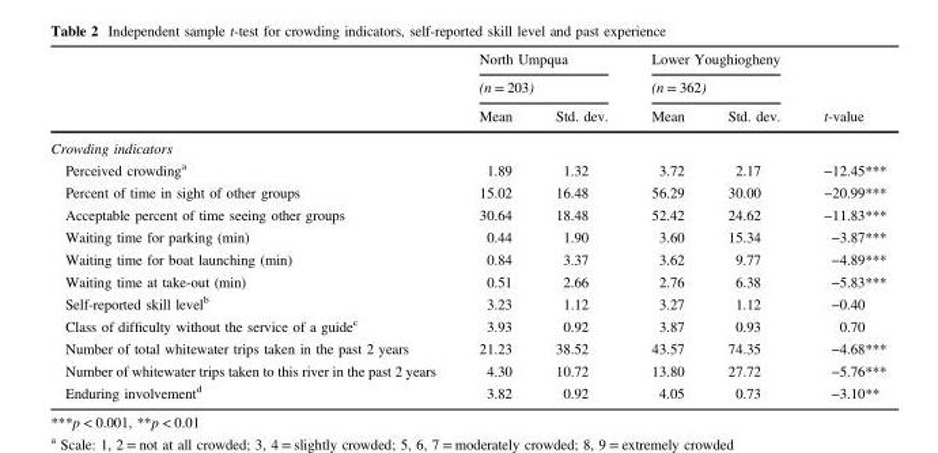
<table><thead><tr><td rowspan="3"></td><td rowspan="2" colspan="2">North Umpqua (n = 203)</td><td rowspan="2" colspan="2">Lower Youghiogheny (n = 362)</td><td rowspan="3">t-value</td></tr><tr></tr><tr><td>Mean</td><td>Std. dev.</td><td>Mean</td><td>Std. dev.</td></tr></thead><tbody><tr><td colspan="6">Crowding indicators</td></tr><tr><td>Perceived crowding<sup>a</sup></td><td>1.89</td><td>1.32</td><td>3.72</td><td>2.17</td><td>−12.45***</td></tr><tr><td>Percent of time in sight of other groups</td><td>15.02</td><td>16.48</td><td>56.29</td><td>30.00</td><td>−20.99***</td></tr><tr><td>Acceptable percent of time seeing other groups</td><td>30.64</td><td>18.48</td><td>52.42</td><td>24.62</td><td>−11.83***</td></tr><tr><td>Waiting time for parking (min)</td><td>0.44</td><td>1.90</td><td>3.60</td><td>15.34</td><td>−3.87***</td></tr><tr><td>Waiting time for boat launching (min)</td><td>0.84</td><td>3.37</td><td>3.62</td><td>9.77</td><td>−4.89***</td></tr><tr><td>Waiting time at take-out (min)</td><td>0.51</td><td>2.66</td><td>2.76</td><td>6.38</td><td>−5.83***</td></tr><tr><td>Self-reported skill level<sup>b</sup></td><td>3.23</td><td>1.12</td><td>3.27</td><td>1.12</td><td>−0.40</td></tr><tr><td>Class of difficulty without the service of a guide<sup>c</sup></td><td>3.93</td><td>0.92</td><td>3.87</td><td>0.93</td><td>0.70</td></tr><tr><td>Number of total whitewater trips taken in the past 2 years</td><td>21.23</td><td>38.52</td><td>43.57</td><td>74.35</td><td>−4.68***</td></tr><tr><td>Number of whitewater trips taken to this river in the past 2 years</td><td>4.30</td><td>10.72</td><td>13.80</td><td>27.72</td><td>−5.76***</td></tr><tr><td>Enduring involvement<sup>d</sup></td><td>3.82</td><td>0.92</td><td>4.05</td><td>0.73</td><td>−3.10**</td></tr></tbody></table>